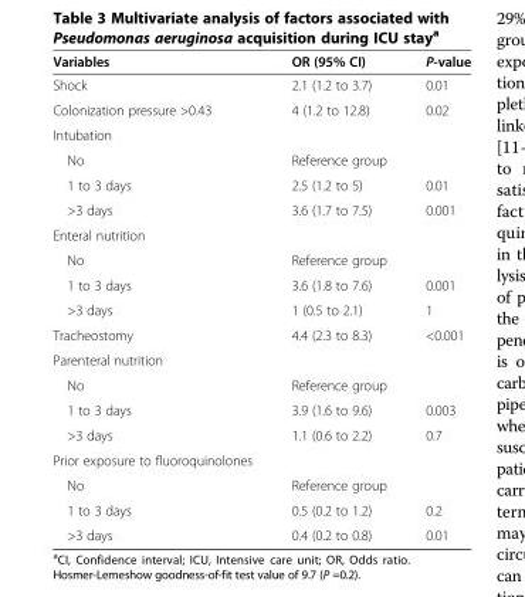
<table><thead><tr><td>Variables</td><td>OR (95% CI)</td><td>P-value</td></tr></thead><tbody><tr><td>Shock</td><td>2.1 (1.2 to 3.7)</td><td>0.01</td></tr><tr><td>Colonization pressure &gt;0.43</td><td>4 (1.2 to 12.8)</td><td>0.02</td></tr><tr><td colspan="3">Intubation</td></tr><tr><td>No</td><td>Reference group</td><td></td></tr><tr><td>1 to 3 days</td><td>2.5 (1.2 to 5)</td><td>0.01</td></tr><tr><td>&gt;3 days</td><td>3.6 (1.7 to 7.5)</td><td>0.001</td></tr><tr><td colspan="3">Enteral nutrition</td></tr><tr><td>No</td><td>Reference group</td><td></td></tr><tr><td>1 to 3 days</td><td>3.6 (1.8 to 7.6)</td><td>0.001</td></tr><tr><td>&gt;3 days</td><td>1 (0.5 to 2.1)</td><td>1</td></tr><tr><td>Tracheostomy</td><td>4.4 (2.3 to 8.3)</td><td>&lt;0.001</td></tr><tr><td colspan="3">Parenteral nutrition</td></tr><tr><td>No</td><td>Reference group</td><td></td></tr><tr><td>1 to 3 days</td><td>3.9 (1.6 to 9.6)</td><td>0.003</td></tr><tr><td>&gt;3 days</td><td>1.1 (0.6 to 2.2)</td><td>0.7</td></tr><tr><td colspan="3">Prior exposure to fluoroquinolones</td></tr><tr><td>No</td><td>Reference group</td><td></td></tr><tr><td>1 to 3 days</td><td>0.5 (0.2 to 1.2)</td><td>0.2</td></tr><tr><td>&gt;3 days</td><td>0.4 (0.2 to 0.8)</td><td>0.01</td></tr></tbody></table>